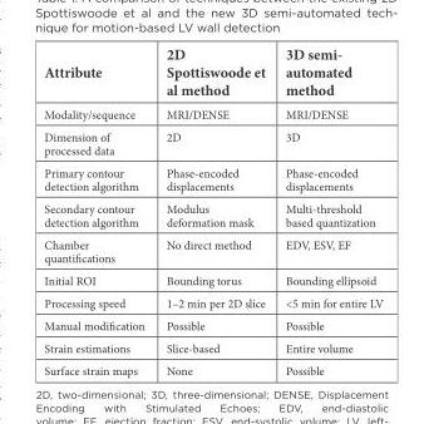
<table><thead><tr><td>Attribute</td><td>2D Spottiswoode et al method</td><td>3D semi- automated method</td></tr></thead><tbody><tr><td>Modality/sequence</td><td>MRI/DENSE</td><td>MRI/DENSE</td></tr><tr><td>Dimension of processed data</td><td>2D</td><td>3D</td></tr><tr><td>Primary contour detection algorithm</td><td>Phase-encoded displacements</td><td>Phase-encoded displacements</td></tr><tr><td>Secondary contour detection algorithm</td><td>Modulus deformation mask</td><td>Multi-threshold based quantization</td></tr><tr><td>Chamber quantifications</td><td>No direct method</td><td>EDV, ESV, EF</td></tr><tr><td>Initial ROI</td><td>Bounding torus</td><td>Bounding ellipsoid</td></tr><tr><td>Processing speed</td><td>1–2 min per 2D slice</td><td>&lt;5 min for entire LV</td></tr><tr><td>Manual modification</td><td>Possible</td><td>Possible</td></tr><tr><td>Strain estimations</td><td>Slice-based</td><td>Entire volume</td></tr><tr><td>Surface strain maps</td><td>None</td><td>Possible</td></tr></tbody></table>